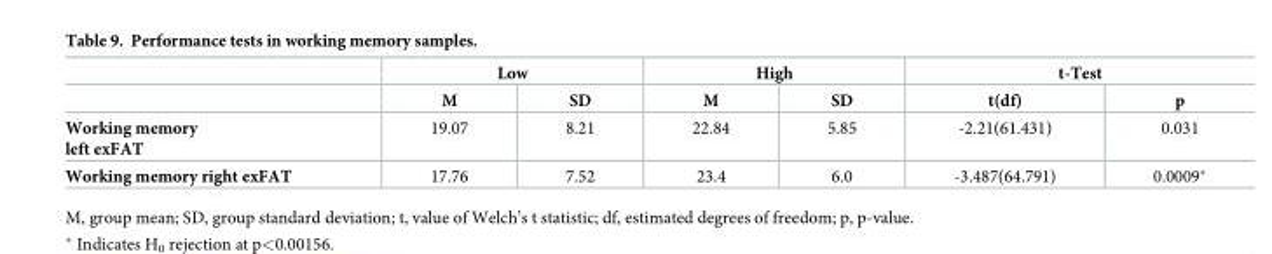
<table><thead><tr><td rowspan="2"></td><td colspan="2">Low</td><td colspan="2">High</td><td colspan="2">t-Test</td></tr><tr><td>M</td><td>SD</td><td>M</td><td>SD</td><td>t(df)</td><td>p</td></tr></thead><tbody><tr><td>Working memory left exFAT</td><td>19.07</td><td>8.21</td><td>22.84</td><td>5.85</td><td>-2.21(61.431)</td><td>0.031</td></tr><tr><td>Working memory right exFAT</td><td>17.76</td><td>7.52</td><td>23.4</td><td>6.0</td><td>-3.487(64.791)</td><td>0.0009*</td></tr></tbody></table>